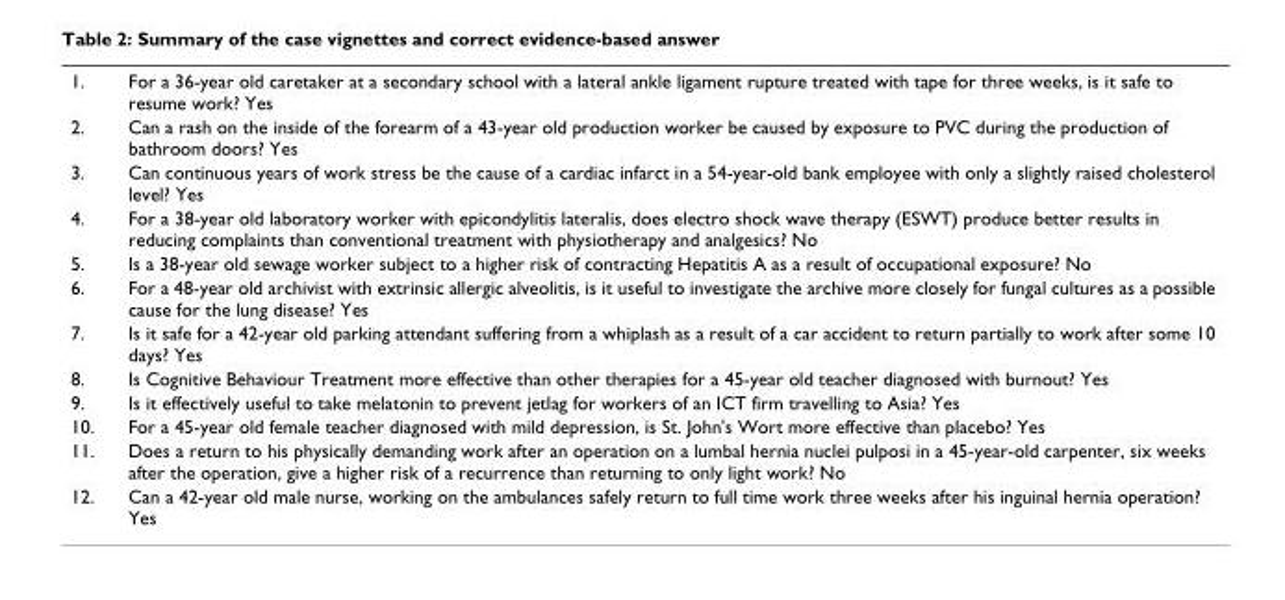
<table><tbody><tr><td>1.</td><td>For a 36-year old caretaker at a secondary school with a lateral ankle ligament rupture treated with tape for three weeks, is it safe to resume work? Yes</td></tr><tr><td>2.</td><td>Can a rash on the inside of the forearm of a 43-year old production worker be caused by exposure to PVC during the production of bathroom doors? Yes</td></tr><tr><td>3.</td><td>Can continuous years of work stress be the cause of a cardiac infarct in a 54-year-old bank employee with only a slightly raised cholesterol level? Yes</td></tr><tr><td>4.</td><td>For a 38-year old laboratory worker with epicondylitis lateralis, does electro shock wave therapy (ESWT) produce better results in reducing complaints than conventional treatment with physiotherapy and analgesics? No</td></tr><tr><td>5.</td><td>Is a 38-year old sewage worker subject to a higher risk of contracting Hepatitis A as a result of occupational exposure? No</td></tr><tr><td>6.</td><td>For a 48-year old archivist with extrinsic allergic alveolitis, is it useful to investigate the archive more closely for fungal cultures as a possible cause for the lung disease? Yes</td></tr><tr><td>7.</td><td>Is it safe for a 42-year old parking attendant suffering from a whiplash as a result of a car accident to return partially to work after some 10 days? Yes</td></tr><tr><td>8.</td><td>Is Cognitive Behaviour Treatment more effective than other therapies for a 45-year old teacher diagnosed with burnout? Yes</td></tr><tr><td>9.</td><td>Is it effectively useful to take melatonin to prevent jetlag for workers of an ICT firm travelling to Asia? Yes</td></tr><tr><td>10.</td><td>For a 45-year old female teacher diagnosed with mild depression, is St. John&#x27;s Wort more effective than placebo? Yes</td></tr><tr><td>11.</td><td>Does a return to his physically demanding work after an operation on a lumbal hernia nuclei pulposi in a 45-year-old carpenter, six weeks after the operation, give a higher risk of a recurrence than returning to only light work? No</td></tr><tr><td>12.</td><td>Can a 42-year old male nurse, working on the ambulances safely return to full time work three weeks after his inguinal hernia operation? Yes</td></tr></tbody></table>